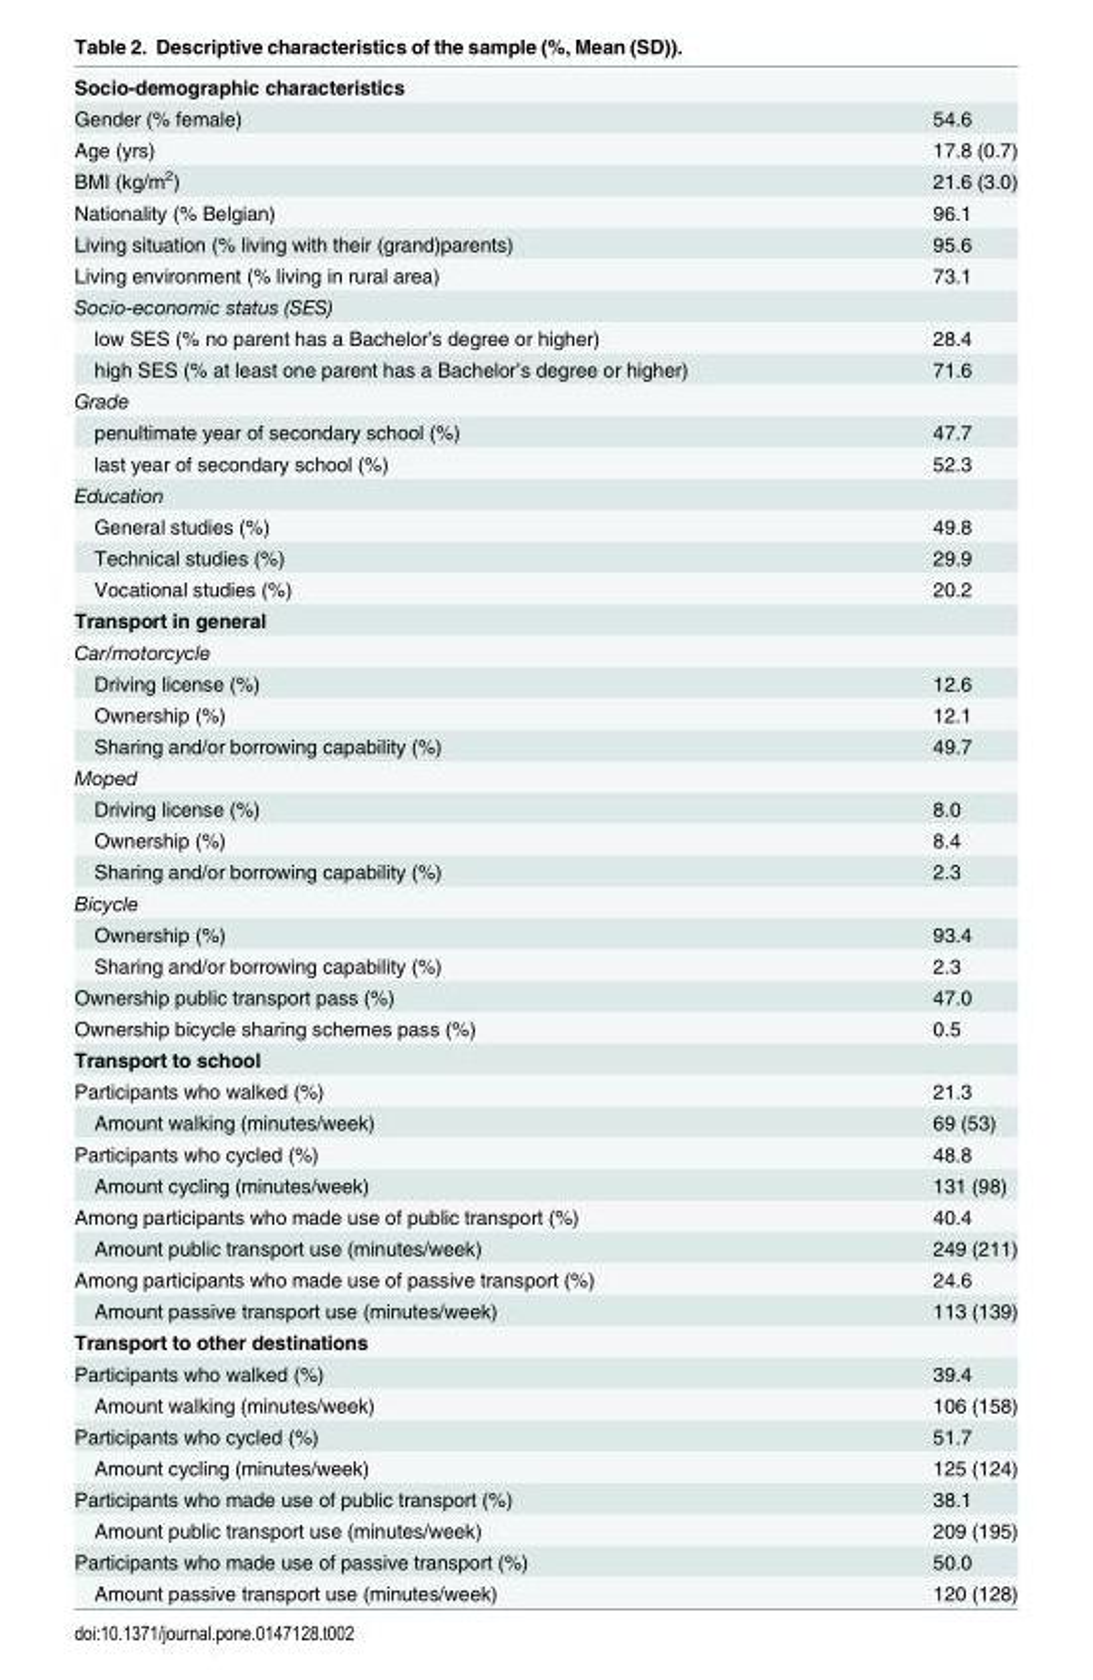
<table><tbody><tr><td colspan="2">Socio-demographic characteristics</td></tr><tr><td>Gender (% female)</td><td>54.6</td></tr><tr><td>Age (yrs)</td><td>17.8 (0.7)</td></tr><tr><td>BMI (kg/m<sup>2</sup>)</td><td>21.6 (3.0)</td></tr><tr><td>Nationality (% Belgian)</td><td>96.1</td></tr><tr><td>Living situation (% living with their (grand)parents)</td><td>95.6</td></tr><tr><td>Living environment (% living in rural area)</td><td>73.1</td></tr><tr><td colspan="2">Socio-economic status (SES)</td></tr><tr><td>low SES (% no parent has a Bachelor’s degree or higher)</td><td>28.4</td></tr><tr><td>high SES (% at least one parent has a Bachelor’s degree or higher)</td><td>71.6</td></tr><tr><td colspan="2">Grade</td></tr><tr><td>penultimate year of secondary school (%)</td><td>47.7</td></tr><tr><td>last year of secondary school (%)</td><td>52.3</td></tr><tr><td colspan="2">Education</td></tr><tr><td>General studies (%)</td><td>49.8</td></tr><tr><td>Technical studies (%)</td><td>29.9</td></tr><tr><td>Vocational studies (%)</td><td>20.2</td></tr><tr><td colspan="2">Transport in general</td></tr><tr><td colspan="2">Car/motorcycle</td></tr><tr><td>Driving license (%)</td><td>12.6</td></tr><tr><td>Ownership (%)</td><td>12.1</td></tr><tr><td>Sharing and/or borrowing capability (%)</td><td>49.7</td></tr><tr><td colspan="2">Moped</td></tr><tr><td>Driving license (%)</td><td>8.0</td></tr><tr><td>Ownership (%)</td><td>8.4</td></tr><tr><td>Sharing and/or borrowing capability (%)</td><td>2.3</td></tr><tr><td colspan="2">Bicycle</td></tr><tr><td>Ownership (%)</td><td>93.4</td></tr><tr><td>Sharing and/or borrowing capability (%)</td><td>2.3</td></tr><tr><td>Ownership public transport pass (%)</td><td>47.0</td></tr><tr><td>Ownership bicycle sharing schemes pass (%)</td><td>0.5</td></tr><tr><td colspan="2">Transport to school</td></tr><tr><td>Participants who walked (%)</td><td>21.3</td></tr><tr><td>Amount walking (minutes/week)</td><td>69 (53)</td></tr><tr><td>Participants who cycled (%)</td><td>48.8</td></tr><tr><td>Amount cycling (minutes/week)</td><td>131 (98)</td></tr><tr><td>Among participants who made use of public transport (%)</td><td>40.4</td></tr><tr><td>Amount public transport use (minutes/week)</td><td>249 (211)</td></tr><tr><td>Among participants who made use of passive transport (%)</td><td>24.6</td></tr><tr><td>Amount passive transport use (minutes/week)</td><td>113 (139)</td></tr><tr><td colspan="2">Transport to other destinations</td></tr><tr><td>Participants who walked (%)</td><td>39.4</td></tr><tr><td>Amount walking (minutes/week)</td><td>106 (158)</td></tr><tr><td>Participants who cycled (%)</td><td>51.7</td></tr><tr><td>Amount cycling (minutes/week)</td><td>125 (124)</td></tr><tr><td>Participants who made use of public transport (%)</td><td>38.1</td></tr><tr><td>Amount public transport use (minutes/week)</td><td>209 (195)</td></tr><tr><td>Participants who made use of passive transport (%)</td><td>50.0</td></tr><tr><td>Amount passive transport use (minutes/week)</td><td>120 (128)</td></tr></tbody></table>